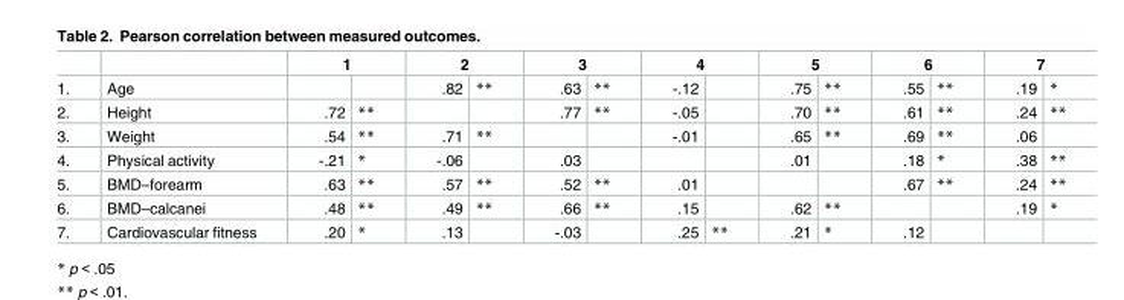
<table><thead><tr><td rowspan="2">1.</td><td rowspan="2">Age</td><td colspan="2">1</td><td colspan="2">2</td><td colspan="2">3</td><td colspan="2">4</td><td colspan="2">5</td><td colspan="2">6</td><td colspan="2">7</td></tr><tr><td></td><td></td><td>.82</td><td>**</td><td>.63</td><td>**</td><td>-.12</td><td></td><td>.75</td><td>**</td><td>.55</td><td>**</td><td>.19</td><td>*</td></tr></thead><tbody><tr><td>2.</td><td>Height</td><td>.72</td><td>**</td><td></td><td></td><td>.77</td><td>**</td><td>-.05</td><td></td><td>.70</td><td>**</td><td>.61</td><td>**</td><td>.24</td><td>**</td></tr><tr><td>3.</td><td>Weight</td><td>.54</td><td>**</td><td>.71</td><td>**</td><td></td><td></td><td>-.01</td><td></td><td>.65</td><td>**</td><td>.69</td><td>**</td><td>.06</td><td></td></tr><tr><td>4.</td><td>Physical activity</td><td>-.21</td><td>*</td><td>-.06</td><td></td><td>.03</td><td></td><td></td><td></td><td>.01</td><td></td><td>.18</td><td>*</td><td>.38</td><td>**</td></tr><tr><td>5.</td><td>BMD–forearm</td><td>.63</td><td>**</td><td>.57</td><td>**</td><td>.52</td><td>**</td><td>.01</td><td></td><td></td><td></td><td>.67</td><td>**</td><td>.24</td><td>**</td></tr><tr><td>6.</td><td>BMD–calcanei</td><td>.48</td><td>**</td><td>.49</td><td>**</td><td>.66</td><td>**</td><td>.15</td><td></td><td>.62</td><td>**</td><td></td><td></td><td>.19</td><td>*</td></tr><tr><td>7.</td><td>Cardiovascular fitness</td><td>.20</td><td>*</td><td>.13</td><td></td><td>-.03</td><td></td><td>.25</td><td>**</td><td>.21</td><td>*</td><td>.12</td><td></td><td></td><td></td></tr></tbody></table>